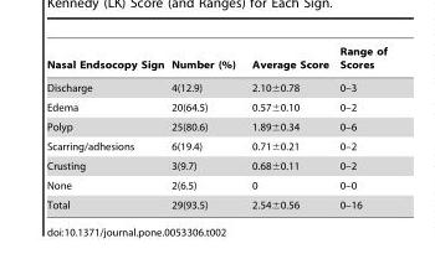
<table><thead><tr><td>Nasal Endsocopy Sign</td><td>Number (%)</td><td>Average Score</td><td>Range of Scores</td></tr></thead><tbody><tr><td>Discharge</td><td>4(12.9)</td><td>2.10±0.78</td><td>0–3</td></tr><tr><td>Edema</td><td>20(64.5)</td><td>0.57±0.10</td><td>0–2</td></tr><tr><td>Polyp</td><td>25(80.6)</td><td>1.89±0.34</td><td>0–6</td></tr><tr><td>Scarring/adhesions</td><td>6(19.4)</td><td>0.71±0.21</td><td>0–2</td></tr><tr><td>Crusting</td><td>3(9.7)</td><td>0.68±0.11</td><td>0–2</td></tr><tr><td>None</td><td>2(6.5)</td><td>0</td><td>0–0</td></tr><tr><td>Total</td><td>29(93.5)</td><td>2.54±0.56</td><td>0–16</td></tr></tbody></table>